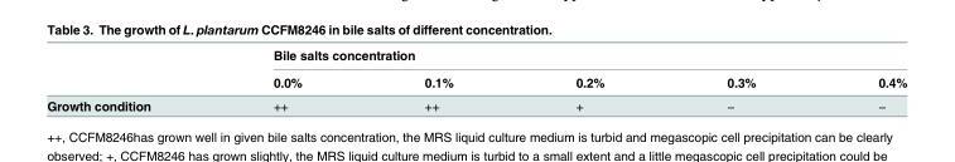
<table><thead><tr><td rowspan="2"></td><td colspan="5">Bile salts concentration</td></tr><tr><td>0.0%</td><td>0.1%</td><td>0.2%</td><td>0.3%</td><td>0.4%</td></tr></thead><tbody><tr><td>Growth condition</td><td>++</td><td>++</td><td>+</td><td>−</td><td>−</td></tr></tbody></table>